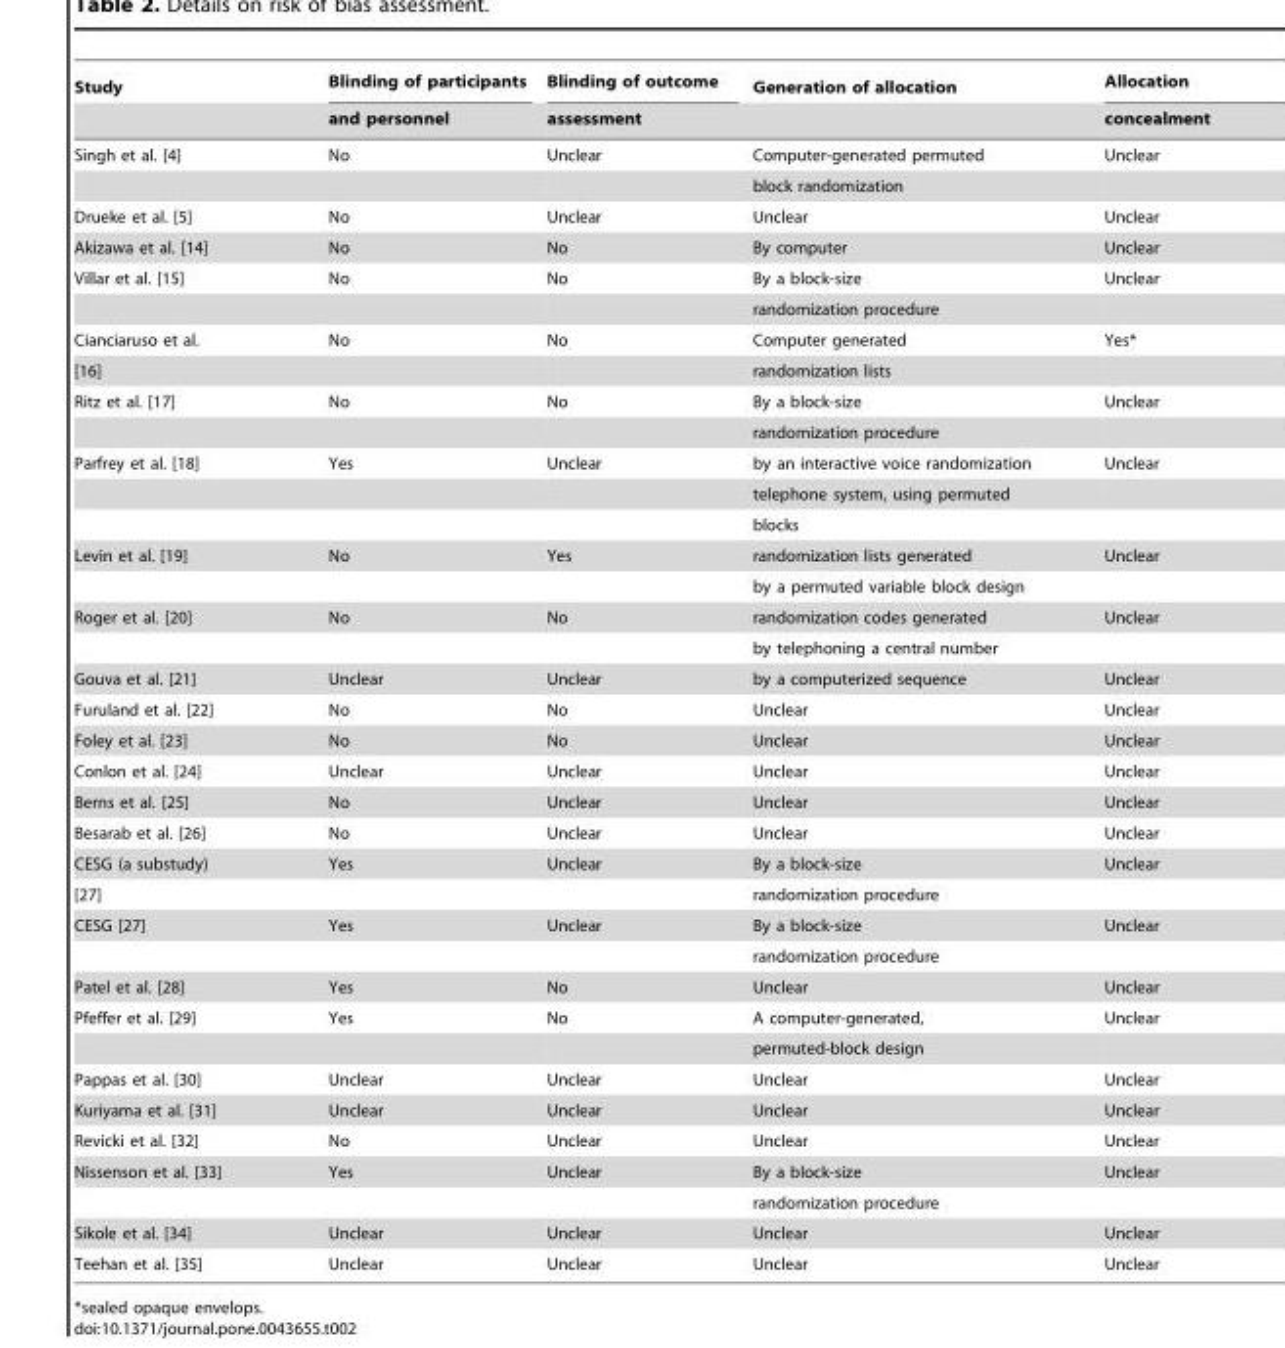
<table><thead><tr><td rowspan="2">Study</td><td rowspan="2">Blinding of participants and personnel</td><td rowspan="2">Blinding of outcome assessment</td><td rowspan="2">Generation of allocation</td><td rowspan="2">Allocation concealment</td></tr><tr></tr></thead><tbody><tr><td rowspan="2">Singh et al. [4]</td><td>No</td><td>Unclear</td><td>Computer-generated permuted</td><td>Unclear</td></tr><tr><td></td><td></td><td>block randomization</td><td></td></tr><tr><td>Drueke et al. [5]</td><td>No</td><td>Unclear</td><td>Unclear</td><td>Unclear</td></tr><tr><td>Akizawa et al. [14]</td><td>No</td><td>No</td><td>By computer</td><td>Unclear</td></tr><tr><td rowspan="2">Villar et al. [15]</td><td>No</td><td>No</td><td>By a block-size</td><td>Unclear</td></tr><tr><td></td><td></td><td>randomization procedure</td><td></td></tr><tr><td>Cianciaruso et al.</td><td>No</td><td>No</td><td>Computer generated</td><td>Yes*</td></tr><tr><td>[16]</td><td></td><td></td><td>randomization lists</td><td></td></tr><tr><td rowspan="2">Ritz et al. [17]</td><td>No</td><td>No</td><td>By a block-size</td><td>Unclear</td></tr><tr><td></td><td></td><td>randomization procedure</td><td></td></tr><tr><td rowspan="3">Parfrey et al. [18]</td><td>Yes</td><td>Unclear</td><td>by an interactive voice randomization</td><td>Unclear</td></tr><tr><td></td><td></td><td>telephone system, using permuted</td><td></td></tr><tr><td></td><td></td><td>blocks</td><td></td></tr><tr><td rowspan="2">Levin et al. [19]</td><td>No</td><td>Yes</td><td>randomization lists generated</td><td>Unclear</td></tr><tr><td></td><td></td><td>by a permuted variable block design</td><td></td></tr><tr><td rowspan="2">Roger et al. [20]</td><td>No</td><td>No</td><td>randomization codes generated</td><td>Unclear</td></tr><tr><td></td><td></td><td>by telephoning a central number</td><td></td></tr><tr><td>Gouva et al. [21]</td><td>Unclear</td><td>Unclear</td><td>by a computerized sequence</td><td>Unclear</td></tr><tr><td>Furuland et al. [22]</td><td>No</td><td>No</td><td>Unclear</td><td>Unclear</td></tr><tr><td>Foley et al. [23]</td><td>No</td><td>No</td><td>Unclear</td><td>Unclear</td></tr><tr><td>Conlon et al. [24]</td><td>Unclear</td><td>Unclear</td><td>Unclear</td><td>Unclear</td></tr><tr><td>Berns et al. [25]</td><td>No</td><td>Unclear</td><td>Unclear</td><td>Unclear</td></tr><tr><td>Besarab et al. [26]</td><td>No</td><td>Unclear</td><td>Unclear</td><td>Unclear</td></tr><tr><td>CESG (a substudy)</td><td>Yes</td><td>Unclear</td><td>By a block-size</td><td>Unclear</td></tr><tr><td>[27]</td><td></td><td></td><td>randomization procedure</td><td></td></tr><tr><td rowspan="2">CESG [27]</td><td>Yes</td><td>Unclear</td><td>By a block-size</td><td>Unclear</td></tr><tr><td></td><td></td><td>randomization procedure</td><td></td></tr><tr><td>Patel et al. [28]</td><td>Yes</td><td>No</td><td>Unclear</td><td>Unclear</td></tr><tr><td rowspan="2">Pfeffer et al. [29]</td><td>Yes</td><td>No</td><td>A computer-generated,</td><td>Unclear</td></tr><tr><td></td><td></td><td>permuted-block design</td><td></td></tr><tr><td>Pappas et al. [30]</td><td>Unclear</td><td>Unclear</td><td>Unclear</td><td>Unclear</td></tr><tr><td>Kuriyama et al. [31]</td><td>Unclear</td><td>Unclear</td><td>Unclear</td><td>Unclear</td></tr><tr><td>Revicki et al. [32]</td><td>No</td><td>Unclear</td><td>Unclear</td><td>Unclear</td></tr><tr><td rowspan="2">Nissenson et al. [33]</td><td>Yes</td><td>Unclear</td><td>By a block-size</td><td>Unclear</td></tr><tr><td></td><td></td><td>randomization procedure</td><td></td></tr><tr><td>Sikole et al. [34]</td><td>Unclear</td><td>Unclear</td><td>Unclear</td><td>Unclear</td></tr><tr><td>Teehan et al. [35]</td><td>Unclear</td><td>Unclear</td><td>Unclear</td><td>Unclear</td></tr></tbody></table>